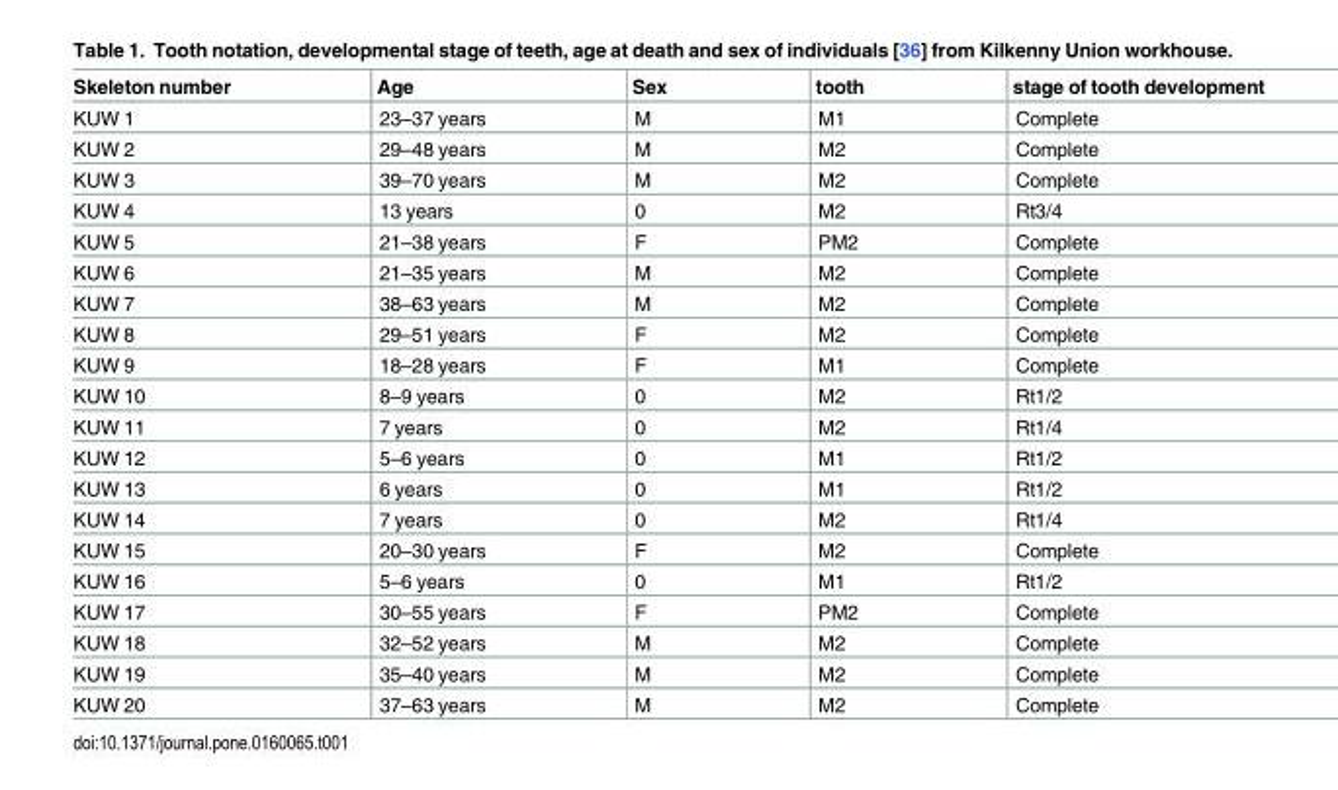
<table><thead><tr><td>Skeleton number</td><td>Age</td><td>Sex</td><td>tooth</td><td>stage of tooth development</td></tr></thead><tbody><tr><td>KUW 1</td><td>23–37 years</td><td>M</td><td>M1</td><td>Complete</td></tr><tr><td>KUW 2</td><td>29–48 years</td><td>M</td><td>M2</td><td>Complete</td></tr><tr><td>KUW 3</td><td>39–70 years</td><td>M</td><td>M2</td><td>Complete</td></tr><tr><td>KUW 4</td><td>13 years</td><td>0</td><td>M2</td><td>Rt3/4</td></tr><tr><td>KUW 5</td><td>21–38 years</td><td>F</td><td>PM2</td><td>Complete</td></tr><tr><td>KUW 6</td><td>21–35 years</td><td>M</td><td>M2</td><td>Complete</td></tr><tr><td>KUW 7</td><td>38–63 years</td><td>M</td><td>M2</td><td>Complete</td></tr><tr><td>KUW 8</td><td>29–51 years</td><td>F</td><td>M2</td><td>Complete</td></tr><tr><td>KUW 9</td><td>18–28 years</td><td>F</td><td>M1</td><td>Complete</td></tr><tr><td>KUW 10</td><td>8–9 years</td><td>0</td><td>M2</td><td>Rt1/2</td></tr><tr><td>KUW 11</td><td>7 years</td><td>0</td><td>M2</td><td>Rt1/4</td></tr><tr><td>KUW 12</td><td>5–6 years</td><td>0</td><td>M1</td><td>Rt1/2</td></tr><tr><td>KUW 13</td><td>6 years</td><td>0</td><td>M1</td><td>Rt1/2</td></tr><tr><td>KUW 14</td><td>7 years</td><td>0</td><td>M2</td><td>Rt1/4</td></tr><tr><td>KUW 15</td><td>20–30 years</td><td>F</td><td>M2</td><td>Complete</td></tr><tr><td>KUW 16</td><td>5–6 years</td><td>0</td><td>M1</td><td>Rt1/2</td></tr><tr><td>KUW 17</td><td>30–55 years</td><td>F</td><td>PM2</td><td>Complete</td></tr><tr><td>KUW 18</td><td>32–52 years</td><td>M</td><td>M2</td><td>Complete</td></tr><tr><td>KUW 19</td><td>35–40 years</td><td>M</td><td>M2</td><td>Complete</td></tr><tr><td>KUW 20</td><td>37–63 years</td><td>M</td><td>M2</td><td>Complete</td></tr></tbody></table>